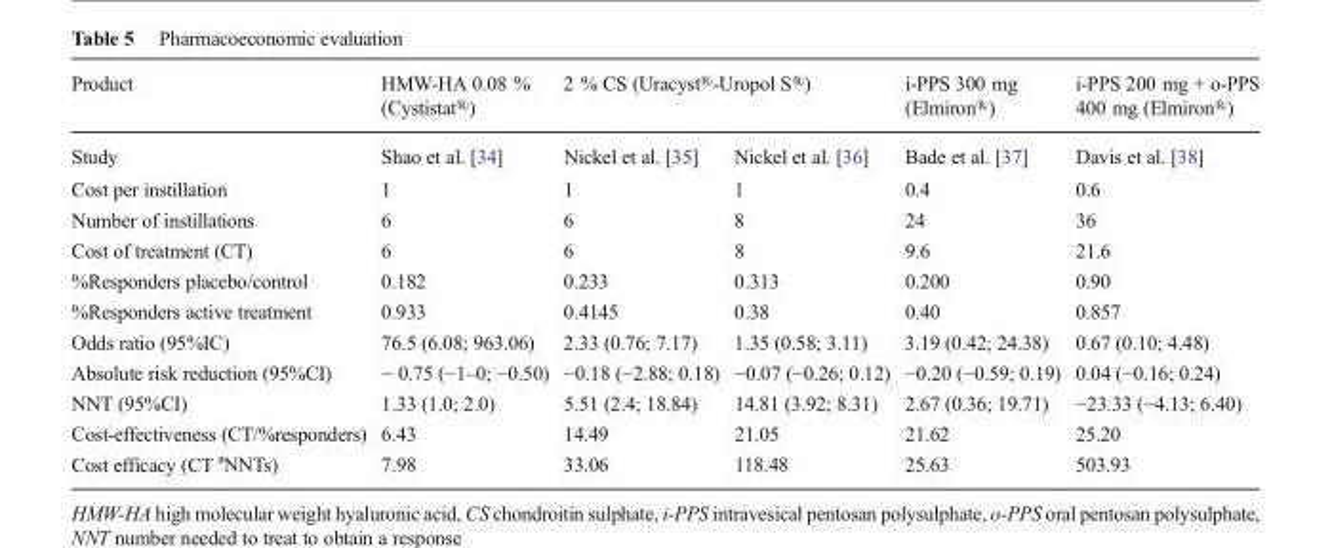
<table><thead><tr><td rowspan="2">Product Study</td><td rowspan="2">HMW-HA 0.08 % (Cystistat®) Shao et al. [34]</td><td colspan="2">2 % CS (Uracyst®-Uropol S®)</td><td rowspan="2">i-PPS 300 mg (Elmiron®) Bade et al. [37]</td><td rowspan="2">i-PPS 200 mg + o-PPS 400 mg (Elmiron®) Davis et al. [38]</td></tr><tr><td>Nickel et al. [35]</td><td>Nickel et al. [36]</td></tr></thead><tbody><tr><td>Cost per instillation</td><td>1</td><td>1</td><td>1</td><td>0.4</td><td>0.6</td></tr><tr><td>Number of instillations</td><td>6</td><td>6</td><td>8</td><td>24</td><td>36</td></tr><tr><td>Cost of treatment (CT)</td><td>6</td><td>6</td><td>8</td><td>9.6</td><td>21.6</td></tr><tr><td>%Responders placebo/control</td><td>0.182</td><td>0.233</td><td>0.313</td><td>0.200</td><td>0.90</td></tr><tr><td>%Responders active treatment</td><td>0.933</td><td>0.4145</td><td>0.38</td><td>0.40</td><td>0.857</td></tr><tr><td>Odds ratio (95%IC)</td><td>76.5 (6.08; 963.06)</td><td>2.33 (0.76; 7.17)</td><td>1.35 (0.58; 3.11)</td><td>3.19 (0.42; 24.38)</td><td>0.67 (0.10; 4.48)</td></tr><tr><td>Absolute risk reduction (95%CI)</td><td>− 0.75 (−1–0; −0.50)</td><td>−0.18 (−2.88; 0.18)</td><td>−0.07 (−0.26; 0.12)</td><td>−0.20 (−0.59; 0.19)</td><td>0.04 (−0.16; 0.24)</td></tr><tr><td>NNT (95%CI)</td><td>1.33 (1.0; 2.0)</td><td>5.51 (2.4; 18.84)</td><td>14.81 (3.92; 8.31)</td><td>2.67 (0.36; 19.71)</td><td>−23.33 (−4.13; 6.40)</td></tr><tr><td>Cost-effectiveness (CT/%responders)</td><td>6.43</td><td>14.49</td><td>21.05</td><td>21.62</td><td>25.20</td></tr><tr><td>Cost efficacy (CT <sup>a</sup>NNTs)</td><td>7.98</td><td>33.06</td><td>118.48</td><td>25.63</td><td>503.93</td></tr></tbody></table>